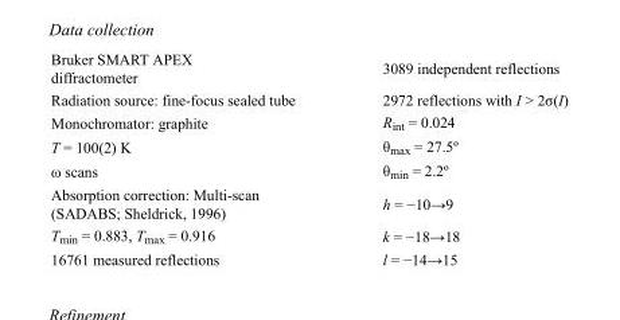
<table><tbody><tr><td>Bruker SMART APEX diffractometer</td><td>3089 independent reflections</td></tr><tr><td>Radiation source: fine-focus sealed tube</td><td>2972 reflections with I &gt; 2σ(I)</td></tr><tr><td>Monochromator: graphite</td><td>R<sub>int</sub> = 0.024</td></tr><tr><td>T = 100(2) K</td><td>θ<sub>max</sub> = 27.5º</td></tr><tr><td>ω scans</td><td>θ<sub>min</sub> = 2.2º</td></tr><tr><td>Absorption correction: Multi-scan (SADABS; Sheldrick, 1996)</td><td>h = −10→9</td></tr><tr><td>T<sub>min</sub> = 0.883, T<sub>max</sub> = 0.916</td><td>k = −18→18</td></tr><tr><td>16761 measured reflections</td><td>l = −14→15</td></tr></tbody></table>